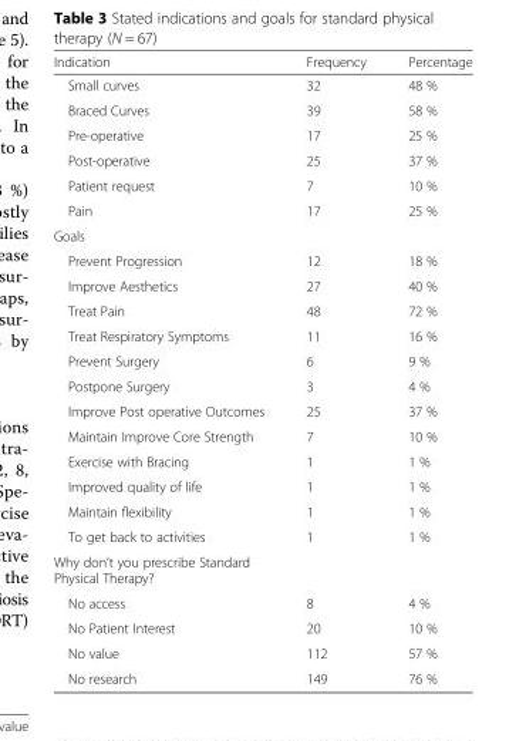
<table><thead><tr><td>Indication</td><td>Frequency</td><td>Percentage</td></tr></thead><tbody><tr><td>Small curves</td><td>32</td><td>48 %</td></tr><tr><td>Braced Curves</td><td>39</td><td>58 %</td></tr><tr><td>Pre-operative</td><td>17</td><td>25 %</td></tr><tr><td>Post-operative</td><td>25</td><td>37 %</td></tr><tr><td>Patient request</td><td>7</td><td>10 %</td></tr><tr><td>Pain</td><td>17</td><td>25 %</td></tr><tr><td colspan="3">Goals</td></tr><tr><td>Prevent Progression</td><td>12</td><td>18 %</td></tr><tr><td>Improve Aesthetics</td><td>27</td><td>40 %</td></tr><tr><td>Treat Pain</td><td>48</td><td>72 %</td></tr><tr><td>Treat Respiratory Symptoms</td><td>11</td><td>16 %</td></tr><tr><td>Prevent Surgery</td><td>6</td><td>9 %</td></tr><tr><td>Postpone Surgery</td><td>3</td><td>4 %</td></tr><tr><td>Improve Post operative Outcomes</td><td>25</td><td>37 %</td></tr><tr><td>Maintain Improve Core Strength</td><td>7</td><td>10 %</td></tr><tr><td>Exercise with Bracing</td><td>1</td><td>1 %</td></tr><tr><td>Improved quality of life</td><td>1</td><td>1 %</td></tr><tr><td>Maintain flexibility</td><td>1</td><td>1 %</td></tr><tr><td>To get back to activities</td><td>1</td><td>1 %</td></tr><tr><td colspan="3">Why don’t you prescribe Standard Physical Therapy?</td></tr><tr><td>No access</td><td>8</td><td>4 %</td></tr><tr><td>No Patient Interest</td><td>20</td><td>10 %</td></tr><tr><td>No value</td><td>112</td><td>57 %</td></tr><tr><td>No research</td><td>149</td><td>76 %</td></tr></tbody></table>